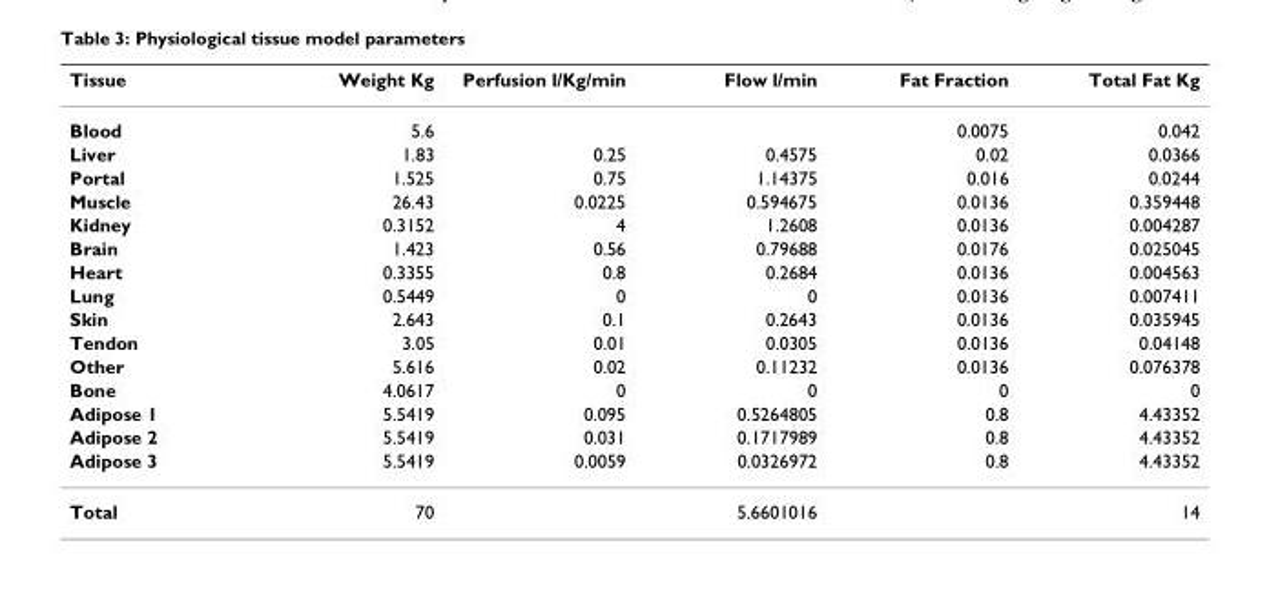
<table><thead><tr><td>Tissue</td><td>Weight Kg</td><td>Perfusion l/Kg/min</td><td>Flow l/min</td><td>Fat Fraction</td><td>Total Fat Kg</td></tr></thead><tbody><tr><td>Blood</td><td>5.6</td><td></td><td></td><td>0.0075</td><td>0.042</td></tr><tr><td>Liver</td><td>1.83</td><td>0.25</td><td>0.4575</td><td>0.02</td><td>0.0366</td></tr><tr><td>Portal</td><td>1.525</td><td>0.75</td><td>1.14375</td><td>0.016</td><td>0.0244</td></tr><tr><td>Muscle</td><td>26.43</td><td>0.0225</td><td>0.594675</td><td>0.0136</td><td>0.359448</td></tr><tr><td>Kidney</td><td>0.3152</td><td>4</td><td>1.2608</td><td>0.0136</td><td>0.004287</td></tr><tr><td>Brain</td><td>1.423</td><td>0.56</td><td>0.79688</td><td>0.0176</td><td>0.025045</td></tr><tr><td>Heart</td><td>0.3355</td><td>0.8</td><td>0.2684</td><td>0.0136</td><td>0.004563</td></tr><tr><td>Lung</td><td>0.5449</td><td>0</td><td>0</td><td>0.0136</td><td>0.007411</td></tr><tr><td>Skin</td><td>2.643</td><td>0.1</td><td>0.2643</td><td>0.0136</td><td>0.035945</td></tr><tr><td>Tendon</td><td>3.05</td><td>0.01</td><td>0.0305</td><td>0.0136</td><td>0.04148</td></tr><tr><td>Other</td><td>5.616</td><td>0.02</td><td>0.11232</td><td>0.0136</td><td>0.076378</td></tr><tr><td>Bone</td><td>4.0617</td><td>0</td><td>0</td><td>0</td><td>0</td></tr><tr><td>Adipose 1</td><td>5.5419</td><td>0.095</td><td>0.5264805</td><td>0.8</td><td>4.43352</td></tr><tr><td>Adipose 2</td><td>5.5419</td><td>0.031</td><td>0.1717989</td><td>0.8</td><td>4.43352</td></tr><tr><td>Adipose 3</td><td>5.5419</td><td>0.0059</td><td>0.0326972</td><td>0.8</td><td>4.43352</td></tr><tr><td>Total</td><td>70</td><td></td><td>5.6601016</td><td></td><td>14</td></tr></tbody></table>